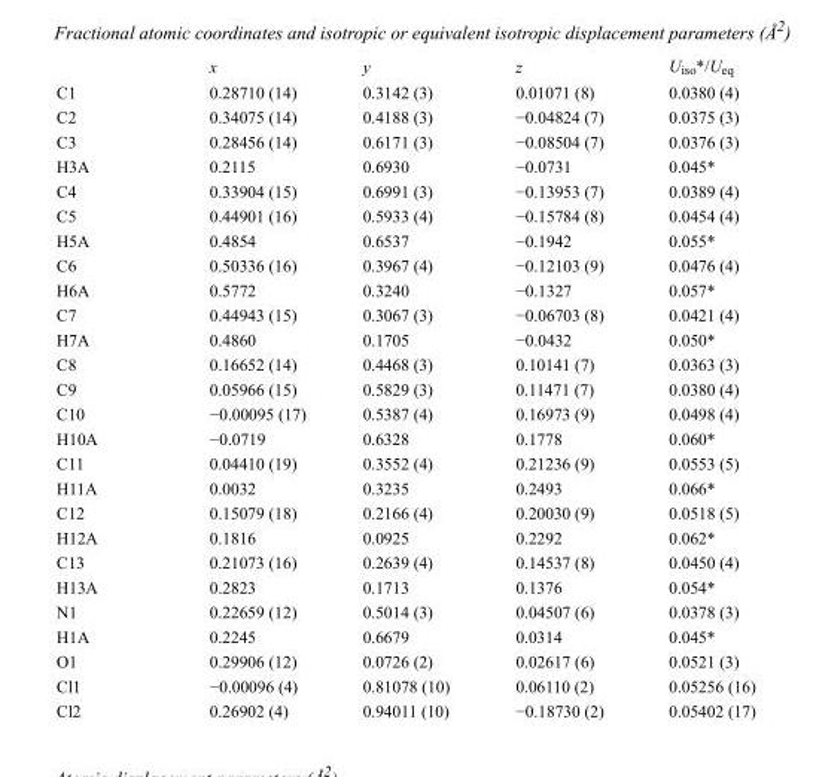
<table><thead><tr><td></td><td>x</td><td>y</td><td>z</td><td>U<sub>iso</sub>*/U<sub>eq</sub></td></tr></thead><tbody><tr><td>C1</td><td>0.28710 (14)</td><td>0.3142 (3)</td><td>0.01071 (8)</td><td>0.0380 (4)</td></tr><tr><td>C2</td><td>0.34075 (14)</td><td>0.4188 (3)</td><td>−0.04824 (7)</td><td>0.0375 (3)</td></tr><tr><td>C3</td><td>0.28456 (14)</td><td>0.6171 (3)</td><td>−0.08504 (7)</td><td>0.0376 (3)</td></tr><tr><td>H3A</td><td>0.2115</td><td>0.6930</td><td>−0.0731</td><td>0.045*</td></tr><tr><td>C4</td><td>0.33904 (15)</td><td>0.6991 (3)</td><td>−0.13953 (7)</td><td>0.0389 (4)</td></tr><tr><td>C5</td><td>0.44901 (16)</td><td>0.5933 (4)</td><td>−0.15784 (8)</td><td>0.0454 (4)</td></tr><tr><td>H5A</td><td>0.4854</td><td>0.6537</td><td>−0.1942</td><td>0.055*</td></tr><tr><td>C6</td><td>0.50336 (16)</td><td>0.3967 (4)</td><td>−0.12103 (9)</td><td>0.0476 (4)</td></tr><tr><td>H6A</td><td>0.5772</td><td>0.3240</td><td>−0.1327</td><td>0.057*</td></tr><tr><td>C7</td><td>0.44943 (15)</td><td>0.3067 (3)</td><td>−0.06703 (8)</td><td>0.0421 (4)</td></tr><tr><td>H7A</td><td>0.4860</td><td>0.1705</td><td>−0.0432</td><td>0.050*</td></tr><tr><td>C8</td><td>0.16652 (14)</td><td>0.4468 (3)</td><td>0.10141 (7)</td><td>0.0363 (3)</td></tr><tr><td>C9</td><td>0.05966 (15)</td><td>0.5829 (3)</td><td>0.11471 (7)</td><td>0.0380 (4)</td></tr><tr><td>C10</td><td>−0.00095 (17)</td><td>0.5387 (4)</td><td>0.16973 (9)</td><td>0.0498 (4)</td></tr><tr><td>H10A</td><td>−0.0719</td><td>0.6328</td><td>0.1778</td><td>0.060*</td></tr><tr><td>C11</td><td>0.04410 (19)</td><td>0.3552 (4)</td><td>0.21236 (9)</td><td>0.0553 (5)</td></tr><tr><td>H11A</td><td>0.0032</td><td>0.3235</td><td>0.2493</td><td>0.066*</td></tr><tr><td>C12</td><td>0.15079 (18)</td><td>0.2166 (4)</td><td>0.20030 (9)</td><td>0.0518 (5)</td></tr><tr><td>H12A</td><td>0.1816</td><td>0.0925</td><td>0.2292</td><td>0.062*</td></tr><tr><td>C13</td><td>0.21073 (16)</td><td>0.2639 (4)</td><td>0.14537 (8)</td><td>0.0450 (4)</td></tr><tr><td>H13A</td><td>0.2823</td><td>0.1713</td><td>0.1376</td><td>0.054*</td></tr><tr><td>N1</td><td>0.22659 (12)</td><td>0.5014 (3)</td><td>0.04507 (6)</td><td>0.0378 (3)</td></tr><tr><td>H1A</td><td>0.2245</td><td>0.6679</td><td>0.0314</td><td>0.045*</td></tr><tr><td>O1</td><td>0.29906 (12)</td><td>0.0726 (2)</td><td>0.02617 (6)</td><td>0.0521 (3)</td></tr><tr><td>Cl1</td><td>−0.00096 (4)</td><td>0.81078 (10)</td><td>0.06110 (2)</td><td>0.05256 (16)</td></tr><tr><td>Cl2</td><td>0.26902 (4)</td><td>0.94011 (10)</td><td>−0.18730 (2)</td><td>0.05402 (17)</td></tr></tbody></table>